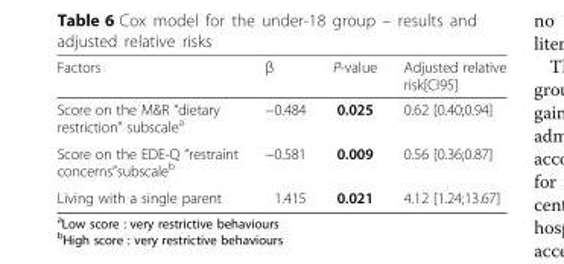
<table><thead><tr><td>Factors</td><td>β</td><td>P-value</td><td>Adjusted relative risk[CI95]</td></tr></thead><tbody><tr><td>Score on the M&amp;R “dietary restriction” subscale<sup>a</sup></td><td>−0.484</td><td>0.025</td><td>0.62 [0.40;0.94]</td></tr><tr><td>Score on the EDE-Q “restraint concerns”subscale<sup>b</sup></td><td>−0.581</td><td>0.009</td><td>0.56 [0.36;0.87]</td></tr><tr><td>Living with a single parent</td><td>1.415</td><td>0.021</td><td>4.12 [1.24;13.67]</td></tr></tbody></table>